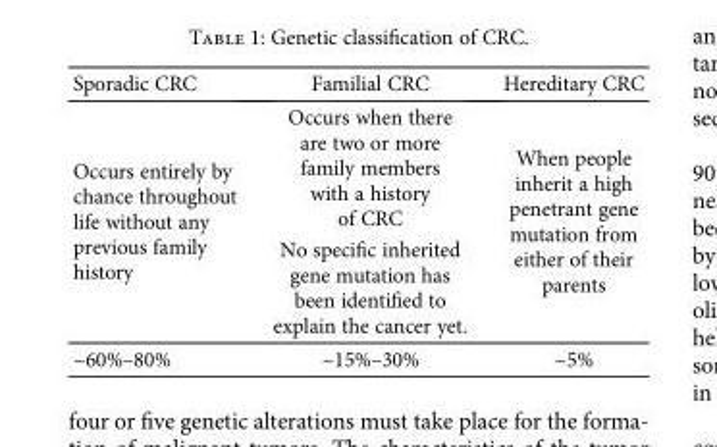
<table><thead><tr><td>Sporadic CRC</td><td>Familial CRC</td><td>Hereditary CRC</td></tr></thead><tbody><tr><td rowspan="2">Occurs entirely by chance throughout life without any previous family history</td><td>Occurs when there are two or more family members with a history of CRC</td><td rowspan="2">When people inherit a high penetrant gene mutation from either of their parents</td></tr><tr><td>No specific inherited gene mutation has been identified to explain the cancer yet.</td></tr><tr><td>~60%–80%</td><td>~15%–30%</td><td>~5%</td></tr></tbody></table>